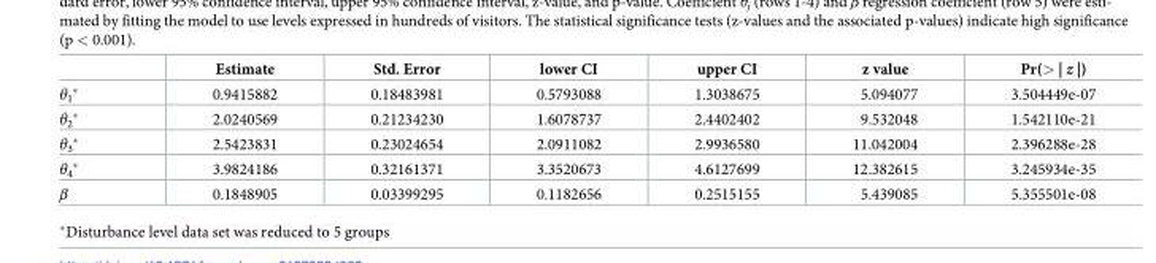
<table><thead><tr><td></td><td>Estimate</td><td>Std. Error</td><td>lower CI</td><td>upper CI</td><td>z value</td><td>Pr(&gt; | z |)</td></tr></thead><tbody><tr><td>θ<sub>1</sub>*</td><td>0.9415882</td><td>0.18483981</td><td>0.5793088</td><td>1.3038675</td><td>5.094077</td><td>3.504449e-07</td></tr><tr><td>θ<sub>2</sub>*</td><td>2.0240569</td><td>0.21234230</td><td>1.6078737</td><td>2.4402402</td><td>9.532048</td><td>1.542110e-21</td></tr><tr><td>θ<sub>3</sub>*</td><td>2.5423831</td><td>0.23024654</td><td>2.0911082</td><td>2.9936580</td><td>11.042004</td><td>2.396288e-28</td></tr><tr><td>θ<sub>4</sub>*</td><td>3.9824186</td><td>0.32161371</td><td>3.3520673</td><td>4.6127699</td><td>12.382615</td><td>3.245934e-35</td></tr><tr><td>β</td><td>0.1848905</td><td>0.03399295</td><td>0.1182656</td><td>0.2515155</td><td>5.439085</td><td>5.355501e-08</td></tr></tbody></table>